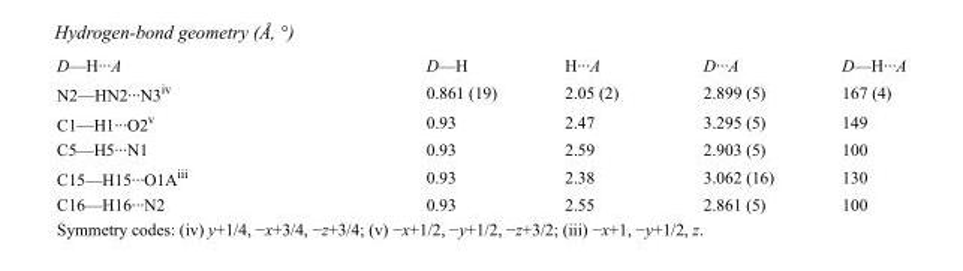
<table><tbody><tr><td>D—H···A</td><td>D—H</td><td>H···A</td><td>D···A</td><td>D—H···A</td></tr><tr><td>N2—HN2···N3<sup>iv</sup></td><td>0.861 (19)</td><td>2.05 (2)</td><td>2.899 (5)</td><td>167 (4)</td></tr><tr><td>C1—H1···O2<sup>v</sup></td><td>0.93</td><td>2.47</td><td>3.295 (5)</td><td>149</td></tr><tr><td>C5—H5···N1</td><td>0.93</td><td>2.59</td><td>2.903 (5)</td><td>100</td></tr><tr><td>C15—H15···O1A<sup>iii</sup></td><td>0.93</td><td>2.38</td><td>3.062 (16)</td><td>130</td></tr><tr><td>C16—H16···N2</td><td>0.93</td><td>2.55</td><td>2.861 (5)</td><td>100</td></tr></tbody></table>